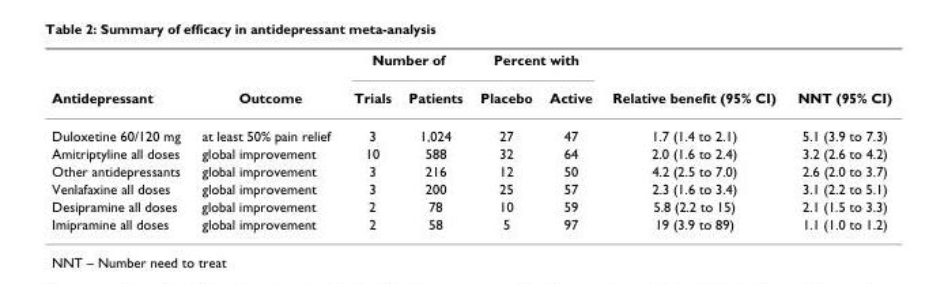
<table><thead><tr><td rowspan="2">Antidepressant</td><td rowspan="2">Outcome</td><td colspan="2">Number of</td><td colspan="2">Percent with</td><td rowspan="2">Relative benefit (95% CI)</td><td rowspan="2">NNT (95% CI)</td></tr><tr><td>Trials</td><td>Patients</td><td>Placebo</td><td>Active</td></tr></thead><tbody><tr><td>Duloxetine 60/120 mg</td><td>at least 50% pain relief</td><td>3</td><td>1,024</td><td>27</td><td>47</td><td>1.7 (1.4 to 2.1)</td><td>5.1 (3.9 to 7.3)</td></tr><tr><td>Amitriptyline all doses</td><td>global improvement</td><td>10</td><td>588</td><td>32</td><td>64</td><td>2.0 (1.6 to 2.4)</td><td>3.2 (2.6 to 4.2)</td></tr><tr><td>Other antidepressants</td><td>global improvement</td><td>3</td><td>216</td><td>12</td><td>50</td><td>4.2 (2.5 to 7.0)</td><td>2.6 (2.0 to 3.7)</td></tr><tr><td>Venlafaxine all doses</td><td>global improvement</td><td>3</td><td>200</td><td>25</td><td>57</td><td>2.3 (1.6 to 3.4)</td><td>3.1 (2.2 to 5.1)</td></tr><tr><td>Desipramine all doses</td><td>global improvement</td><td>2</td><td>78</td><td>10</td><td>59</td><td>5.8 (2.2 to 15)</td><td>2.1 (1.5 to 3.3)</td></tr><tr><td>Imipramine all doses</td><td>global improvement</td><td>2</td><td>58</td><td>5</td><td>97</td><td>19 (3.9 to 89)</td><td>1.1 (1.0 to 1.2)</td></tr></tbody></table>